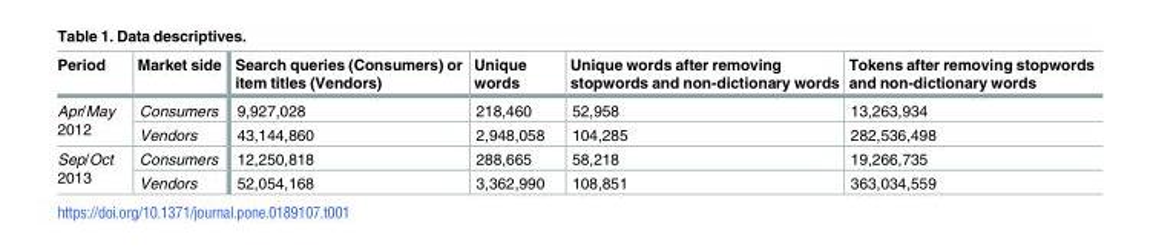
<table><thead><tr><td>Period</td><td>Market side</td><td>Search queries (Consumers) or item titles (Vendors)</td><td>Unique words</td><td>Unique words after removing stopwords and non-dictionary words</td><td>Tokens after removing stopwords and non-dictionary words</td></tr></thead><tbody><tr><td rowspan="2">Apr/May 2012</td><td>Consumers</td><td>9,927,028</td><td>218,460</td><td>52,958</td><td>13,263,934</td></tr><tr><td>Vendors</td><td>43,144,860</td><td>2,948,058</td><td>104,285</td><td>282,536,498</td></tr><tr><td rowspan="2">Sep/Oct 2013</td><td>Consumers</td><td>12,250,818</td><td>288,665</td><td>58,218</td><td>19,266,735</td></tr><tr><td>Vendors</td><td>52,054,168</td><td>3,362,990</td><td>108,851</td><td>363,034,559</td></tr></tbody></table>